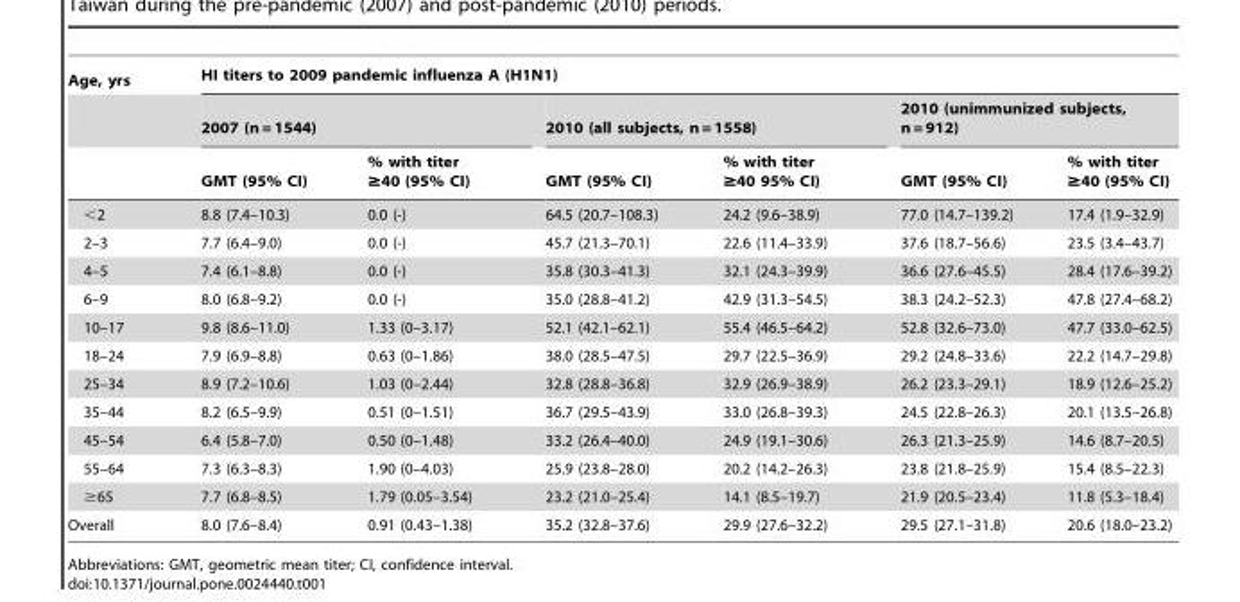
<table><thead><tr><td rowspan="3">Age, yrs</td><td colspan="6">HI titers to 2009 pandemic influenza A (H1N1)</td></tr><tr><td colspan="2">2007 (n = 1544)</td><td colspan="2">2010 (all subjects, n = 1558)</td><td colspan="2">2010 (unimmunized subjects, n = 912)</td></tr><tr><td>GMT (95% CI)</td><td>% with titer ≥40 (95% CI)</td><td>GMT (95% CI)</td><td>% with titer ≥40 95% CI)</td><td>GMT (95% CI)</td><td>% with titer ≥40 (95% CI)</td></tr></thead><tbody><tr><td>&lt;2</td><td>8.8 (7.4–10.3)</td><td>0.0 (-)</td><td>64.5 (20.7–108.3)</td><td>24.2 (9.6–38.9)</td><td>77.0 (14.7–139.2)</td><td>17.4 (1.9–32.9)</td></tr><tr><td>2–3</td><td>7.7 (6.4–9.0)</td><td>0.0 (-)</td><td>45.7 (21.3–70.1)</td><td>22.6 (11.4–33.9)</td><td>37.6 (18.7–56.6)</td><td>23.5 (3.4–43.7)</td></tr><tr><td>4–5</td><td>7.4 (6.1–8.8)</td><td>0.0 (-)</td><td>35.8 (30.3–41.3)</td><td>32.1 (24.3–39.9)</td><td>36.6 (27.6–45.5)</td><td>28.4 (17.6–39.2)</td></tr><tr><td>6–9</td><td>8.0 (6.8–9.2)</td><td>0.0 (-)</td><td>35.0 (28.8–41.2)</td><td>42.9 (31.3–54.5)</td><td>38.3 (24.2–52.3)</td><td>47.8 (27.4–68.2)</td></tr><tr><td>10–17</td><td>9.8 (8.6–11.0)</td><td>1.33 (0–3.17)</td><td>52.1 (42.1–62.1)</td><td>55.4 (46.5–64.2)</td><td>52.8 (32.6–73.0)</td><td>47.7 (33.0–62.5)</td></tr><tr><td>18–24</td><td>7.9 (6.9–8.8)</td><td>0.63 (0–1.86)</td><td>38.0 (28.5–47.5)</td><td>29.7 (22.5–36.9)</td><td>29.2 (24.8–33.6)</td><td>22.2 (14.7–29.8)</td></tr><tr><td>25–34</td><td>8.9 (7.2–10.6)</td><td>1.03 (0–2.44)</td><td>32.8 (28.8–36.8)</td><td>32.9 (26.9–38.9)</td><td>26.2 (23.3–29.1)</td><td>18.9 (12.6–25.2)</td></tr><tr><td>35–44</td><td>8.2 (6.5–9.9)</td><td>0.51 (0–1.51)</td><td>36.7 (29.5–43.9)</td><td>33.0 (26.8–39.3)</td><td>24.5 (22.8–26.3)</td><td>20.1 (13.5–26.8)</td></tr><tr><td>45–54</td><td>6.4 (5.8–7.0)</td><td>0.50 (0–1.48)</td><td>33.2 (26.4–40.0)</td><td>24.9 (19.1–30.6)</td><td>26.3 (21.3–25.9)</td><td>14.6 (8.7–20.5)</td></tr><tr><td>55–64</td><td>7.3 (6.3–8.3)</td><td>1.90 (0–4.03)</td><td>25.9 (23.8–28.0)</td><td>20.2 (14.2–26.3)</td><td>23.8 (21.8–25.9)</td><td>15.4 (8.5–22.3)</td></tr><tr><td>≥65</td><td>7.7 (6.8–8.5)</td><td>1.79 (0.05–3.54)</td><td>23.2 (21.0–25.4)</td><td>14.1 (8.5–19.7)</td><td>21.9 (20.5–23.4)</td><td>11.8 (5.3–18.4)</td></tr><tr><td>Overall</td><td>8.0 (7.6–8.4)</td><td>0.91 (0.43–1.38)</td><td>35.2 (32.8–37.6)</td><td>29.9 (27.6–32.2)</td><td>29.5 (27.1–31.8)</td><td>20.6 (18.0–23.2)</td></tr></tbody></table>